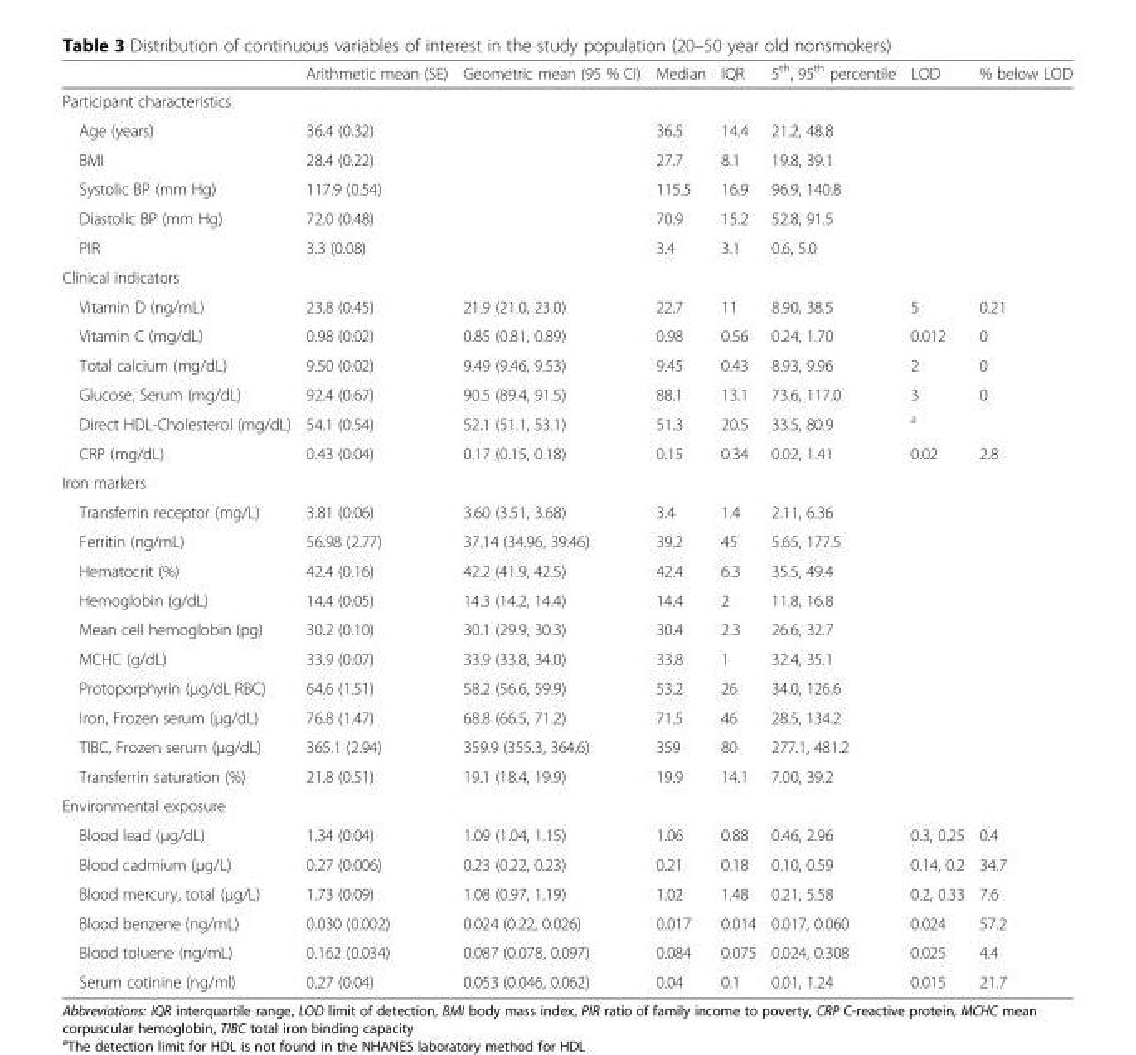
<table><thead><tr><td></td><td>Arithmetic mean (SE)</td><td>Geometric mean (95 % CI)</td><td>Median</td><td>IQR</td><td>5<sup>th</sup>, 95<sup>th</sup> percentile</td><td>LOD</td><td>% below LOD</td></tr></thead><tbody><tr><td colspan="8">Participant characteristics</td></tr><tr><td>Age (years)</td><td>36.4 (0.32)</td><td></td><td>36.5</td><td>14.4</td><td>21.2, 48.8</td><td></td><td></td></tr><tr><td>BMI</td><td>28.4 (0.22)</td><td></td><td>27.7</td><td>8.1</td><td>19.8, 39.1</td><td></td><td></td></tr><tr><td>Systolic BP (mm Hg)</td><td>117.9 (0.54)</td><td></td><td>115.5</td><td>16.9</td><td>96.9, 140.8</td><td></td><td></td></tr><tr><td>Diastolic BP (mm Hg)</td><td>72.0 (0.48)</td><td></td><td>70.9</td><td>15.2</td><td>52.8, 91.5</td><td></td><td></td></tr><tr><td>PIR</td><td>3.3 (0.08)</td><td></td><td>3.4</td><td>3.1</td><td>0.6, 5.0</td><td></td><td></td></tr><tr><td colspan="8">Clinical indicators</td></tr><tr><td>Vitamin D (ng/mL)</td><td>23.8 (0.45)</td><td>21.9 (21.0, 23.0)</td><td>22.7</td><td>11</td><td>8.90, 38.5</td><td>5</td><td>0.21</td></tr><tr><td>Vitamin C (mg/dL)</td><td>0.98 (0.02)</td><td>0.85 (0.81, 0.89)</td><td>0.98</td><td>0.56</td><td>0.24, 1.70</td><td>0.012</td><td>0</td></tr><tr><td>Total calcium (mg/dL)</td><td>9.50 (0.02)</td><td>9.49 (9.46, 9.53)</td><td>9.45</td><td>0.43</td><td>8.93, 9.96</td><td>2</td><td>0</td></tr><tr><td>Glucose, Serum (mg/dL)</td><td>92.4 (0.67)</td><td>90.5 (89.4, 91.5)</td><td>88.1</td><td>13.1</td><td>73.6, 117.0</td><td>3</td><td>0</td></tr><tr><td>Direct HDL-Cholesterol (mg/dL)</td><td>54.1 (0.54)</td><td>52.1 (51.1, 53.1)</td><td>51.3</td><td>20.5</td><td>33.5, 80.9</td><td><sup>a</sup></td><td></td></tr><tr><td>CRP (mg/dL)</td><td>0.43 (0.04)</td><td>0.17 (0.15, 0.18)</td><td>0.15</td><td>0.34</td><td>0.02, 1.41</td><td>0.02</td><td>2.8</td></tr><tr><td colspan="8">Iron markers</td></tr><tr><td>Transferrin receptor (mg/L)</td><td>3.81 (0.06)</td><td>3.60 (3.51, 3.68)</td><td>3.4</td><td>1.4</td><td>2.11, 6.36</td><td></td><td></td></tr><tr><td>Ferritin (ng/mL)</td><td>56.98 (2.77)</td><td>37.14 (34.96, 39.46)</td><td>39.2</td><td>45</td><td>5.65, 177.5</td><td></td><td></td></tr><tr><td>Hematocrit (%)</td><td>42.4 (0.16)</td><td>42.2 (41.9, 42.5)</td><td>42.4</td><td>6.3</td><td>35.5, 49.4</td><td></td><td></td></tr><tr><td>Hemoglobin (g/dL)</td><td>14.4 (0.05)</td><td>14.3 (14.2, 14.4)</td><td>14.4</td><td>2</td><td>11.8, 16.8</td><td></td><td></td></tr><tr><td>Mean cell hemoglobin (pg)</td><td>30.2 (0.10)</td><td>30.1 (29.9, 30.3)</td><td>30.4</td><td>2.3</td><td>26.6, 32.7</td><td></td><td></td></tr><tr><td>MCHC (g/dL)</td><td>33.9 (0.07)</td><td>33.9 (33.8, 34.0)</td><td>33.8</td><td>1</td><td>32.4, 35.1</td><td></td><td></td></tr><tr><td>Protoporphyrin (μg/dL RBC)</td><td>64.6 (1.51)</td><td>58.2 (56.6, 59.9)</td><td>53.2</td><td>26</td><td>34.0, 126.6</td><td></td><td></td></tr><tr><td>Iron, Frozen serum (μg/dL)</td><td>76.8 (1.47)</td><td>68.8 (66.5, 71.2)</td><td>71.5</td><td>46</td><td>28.5, 134.2</td><td></td><td></td></tr><tr><td>TIBC, Frozen serum (μg/dL)</td><td>365.1 (2.94)</td><td>359.9 (355.3, 364.6)</td><td>359</td><td>80</td><td>277.1, 481.2</td><td></td><td></td></tr><tr><td>Transferrin saturation (%)</td><td>21.8 (0.51)</td><td>19.1 (18.4, 19.9)</td><td>19.9</td><td>14.1</td><td>7.00, 39.2</td><td></td><td></td></tr><tr><td colspan="8">Environmental exposure</td></tr><tr><td>Blood lead (μg/dL)</td><td>1.34 (0.04)</td><td>1.09 (1.04, 1.15)</td><td>1.06</td><td>0.88</td><td>0.46, 2.96</td><td>0.3, 0.25</td><td>0.4</td></tr><tr><td>Blood cadmium (μg/L)</td><td>0.27 (0.006)</td><td>0.23 (0.22, 0.23)</td><td>0.21</td><td>0.18</td><td>0.10, 0.59</td><td>0.14, 0.2</td><td>34.7</td></tr><tr><td>Blood mercury, total (μg/L)</td><td>1.73 (0.09)</td><td>1.08 (0.97, 1.19)</td><td>1.02</td><td>1.48</td><td>0.21, 5.58</td><td>0.2, 0.33</td><td>7.6</td></tr><tr><td>Blood benzene (ng/mL)</td><td>0.030 (0.002)</td><td>0.024 (0.22, 0.026)</td><td>0.017</td><td>0.014</td><td>0.017, 0.060</td><td>0.024</td><td>57.2</td></tr><tr><td>Blood toluene (ng/mL)</td><td>0.162 (0.034)</td><td>0.087 (0.078, 0.097)</td><td>0.084</td><td>0.075</td><td>0.024, 0.308</td><td>0.025</td><td>4.4</td></tr><tr><td>Serum cotinine (ng/ml)</td><td>0.27 (0.04)</td><td>0.053 (0.046, 0.062)</td><td>0.04</td><td>0.1</td><td>0.01, 1.24</td><td>0.015</td><td>21.7</td></tr></tbody></table>